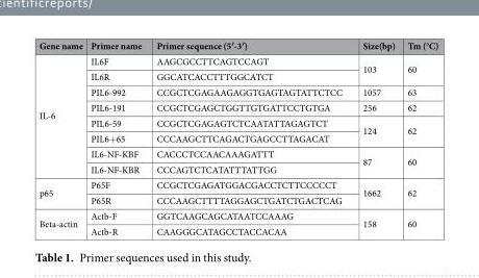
<table><thead><tr><td>Gene name</td><td>Primer name</td><td>Primer sequence (5′-3′)</td><td>Size(bp)</td><td>Tm (°C)</td></tr></thead><tbody><tr><td rowspan="8">IL-6</td><td>IL6F</td><td>AAGCGCCTTCAGTCCAGT</td><td rowspan="2">103</td><td rowspan="2">60</td></tr><tr><td>IL6R</td><td>GGCATCACCTTTGGCATCT</td></tr><tr><td>PIL6-992</td><td>CCGCTCGAGAAGAGGTGAGTAGTATTCTCC</td><td>1057</td><td>63</td></tr><tr><td>PIL6-191</td><td>CCGCTCGAGCTGGTTGTGATTCCTGTGA</td><td>256</td><td>62</td></tr><tr><td>PIL6-59</td><td>CCGCTCGAGAGTCTCAATATTAGAGTCT</td><td rowspan="2">124</td><td rowspan="2">62</td></tr><tr><td>PIL6+65</td><td>CCCAAGCTTCAGACTGAGCCTTAGACAT</td></tr><tr><td>IL6-NF-KBF</td><td>CACCCTCCAACAAAGATTT</td><td rowspan="2">87</td><td rowspan="2">60</td></tr><tr><td>IL6-NF-KBR</td><td>CCCAGTCTCATATTTATTGG</td></tr><tr><td rowspan="2">p65</td><td>P65F</td><td>CCGCTCGAGATGGACGACCTCTTCCCCCT</td><td rowspan="2">1662</td><td rowspan="2">62</td></tr><tr><td>P65R</td><td>CCCAAGCTTTTAGGAGCTGATCTGACTCAG</td></tr><tr><td rowspan="2">Beta-actin</td><td>Actb-F</td><td>GGTCAAGCAGCATAATCCAAAG</td><td rowspan="2">158</td><td rowspan="2">60</td></tr><tr><td>Actb-R</td><td>CAAGGGCATAGCCTACCACAA</td></tr></tbody></table>